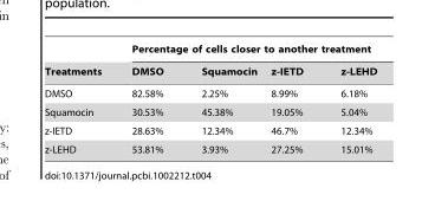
<table><thead><tr><td rowspan="2">Treatments</td><td colspan="4">Percentage of cells closer to another treatment</td></tr><tr><td>DMSO</td><td>Squamocin</td><td>z-IETD</td><td>z-LEHD</td></tr></thead><tbody><tr><td>DMSO</td><td>82.58%</td><td>2.25%</td><td>8.99%</td><td>6.18%</td></tr><tr><td>Squamocin</td><td>30.53%</td><td>45.38%</td><td>19.05%</td><td>5.04%</td></tr><tr><td>z-IETD</td><td>28.63%</td><td>12.34%</td><td>46.7%</td><td>12.34%</td></tr><tr><td>z-LEHD</td><td>53.81%</td><td>3.93%</td><td>27.25%</td><td>15.01%</td></tr></tbody></table>